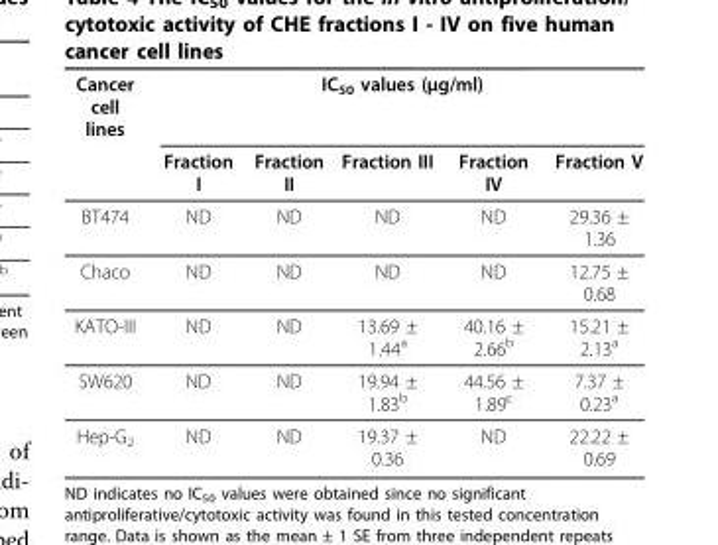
<table><thead><tr><td rowspan="2">Cancer cell lines</td><td colspan="5">IC<sub>50</sub> values (μg/ml)</td></tr><tr><td>Fraction I</td><td>Fraction II</td><td>Fraction III</td><td>Fraction IV</td><td>Fraction V</td></tr></thead><tbody><tr><td>BT474</td><td>ND</td><td>ND</td><td>ND</td><td>ND</td><td>29.36 ± 1.36</td></tr><tr><td>Chaco</td><td>ND</td><td>ND</td><td>ND</td><td>ND</td><td>12.75 ± 0.68</td></tr><tr><td>KATO-III</td><td>ND</td><td>ND</td><td>13.69 ± 1.44<sup>a</sup></td><td>40.16 ± 2.66<sup>b</sup></td><td>15.21 ± 2.13<sup>a</sup></td></tr><tr><td>SW620</td><td>ND</td><td>ND</td><td>19.94 ± 1.83<sup>b</sup></td><td>44.56 ± 1.89<sup>c</sup></td><td>7.37 ± 0.23<sup>a</sup></td></tr><tr><td>Hep-G<sub>2</sub></td><td>ND</td><td>ND</td><td>19.37 ± 0.36</td><td>ND</td><td>22.22 ± 0.69</td></tr></tbody></table>